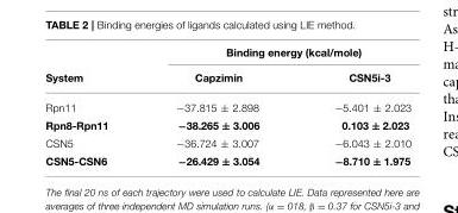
<table><thead><tr><td rowspan="2">System</td><td colspan="2">Binding energy (kcal/mole)</td></tr><tr><td>Capzimin</td><td>CSN5i-3</td></tr></thead><tbody><tr><td>Rpn11</td><td>−37.815 ± 2.898</td><td>−5.401 ± 2.023</td></tr><tr><td>Rpn8-Rpn11</td><td>−38.265 ± 3.006</td><td>0.103 ± 2.023</td></tr><tr><td>CSN5</td><td>−36.724 ± 3.007</td><td>−6.043 ± 2.010</td></tr><tr><td>CSN5-CSN6</td><td>−26.429 ± 3.054</td><td>−8.710 ± 1.975</td></tr></tbody></table>